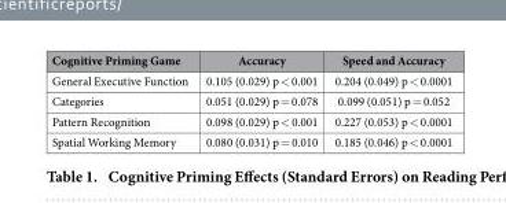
<table><thead><tr><td>Cognitive Priming Game</td><td>Accuracy</td><td>Speed and Accuracy</td></tr></thead><tbody><tr><td>General Executive Function</td><td>0.105 (0.029) p &lt; 0.001</td><td>0.204 (0.049) p &lt; 0.0001</td></tr><tr><td>Categories</td><td>0.051 (0.029) p = 0.078</td><td>0.099 (0.051) p = 0.052</td></tr><tr><td>Pattern Recognition</td><td>0.098 (0.029) p &lt; 0.001</td><td>0.227 (0.053) p &lt; 0.0001</td></tr><tr><td>Spatial Working Memory</td><td>0.080 (0.031) p = 0.010</td><td>0.185 (0.046) p &lt; 0.0001</td></tr></tbody></table>